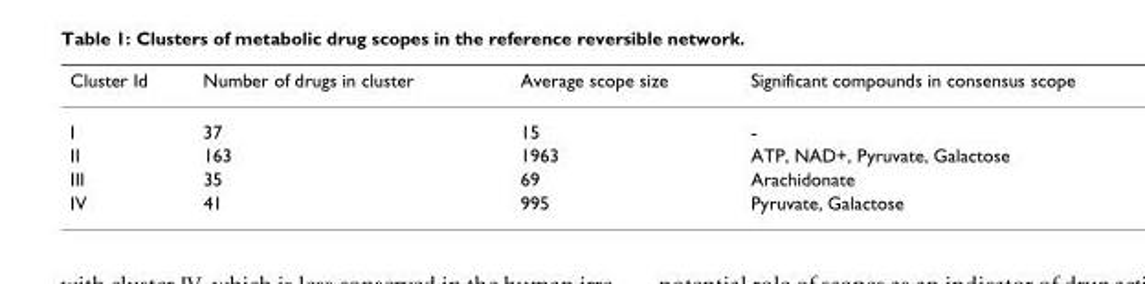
<table><thead><tr><td>Cluster Id</td><td>Number of drugs in cluster</td><td>Average scope size</td><td>Significant compounds in consensus scope</td></tr></thead><tbody><tr><td>I</td><td>37</td><td>15</td><td>-</td></tr><tr><td>II</td><td>163</td><td>1963</td><td>ATP, NAD+, Pyruvate, Galactose</td></tr><tr><td>III</td><td>35</td><td>69</td><td>Arachidonate</td></tr><tr><td>IV</td><td>41</td><td>995</td><td>Pyruvate, Galactose</td></tr></tbody></table>